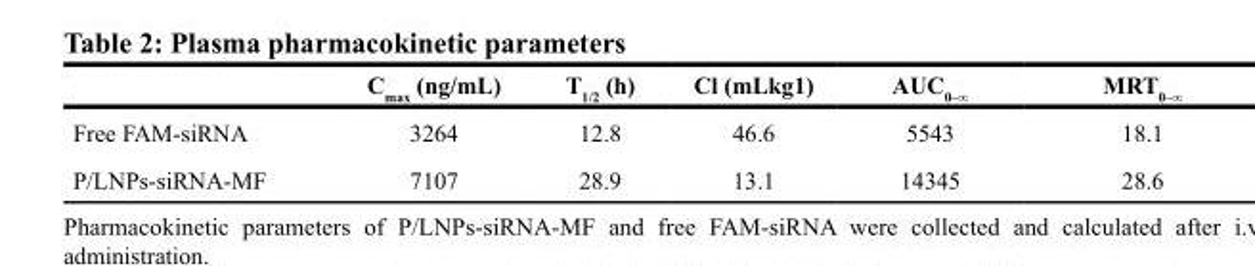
<table><thead><tr><td></td><td>C<sub>max</sub> (ng/mL)</td><td>T<sub>1/2</sub> (h)</td><td>Cl (mLkg1)</td><td>AUC<sub>0–∞</sub></td><td>MRT<sub>0–∞</sub></td></tr></thead><tbody><tr><td>Free FAM-siRNA</td><td>3264</td><td>12.8</td><td>46.6</td><td>5543</td><td>18.1</td></tr><tr><td>P/LNPs-siRNA-MF</td><td>7107</td><td>28.9</td><td>13.1</td><td>14345</td><td>28.6</td></tr></tbody></table>